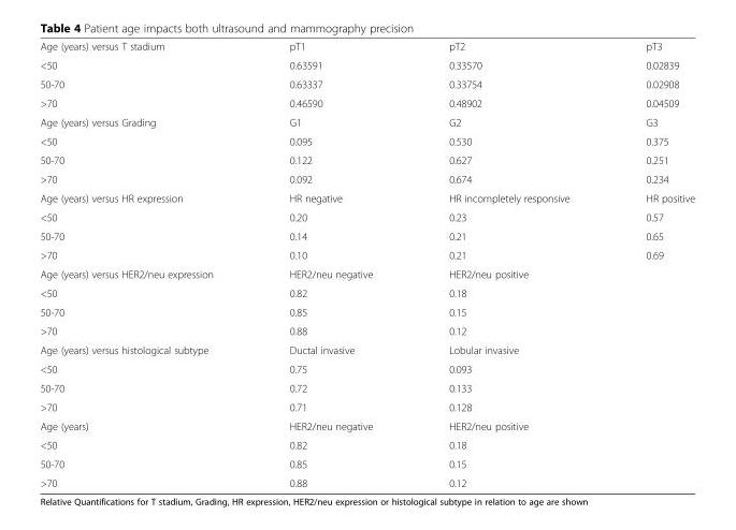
<table><tbody><tr><td>Age (years) versus T stadium</td><td>pT1</td><td>pT2</td><td>pT3</td></tr><tr><td>&lt;50</td><td>0.63591</td><td>0.33570</td><td>0.02839</td></tr><tr><td>50-70</td><td>0.63337</td><td>0.33754</td><td>0.02908</td></tr><tr><td>&gt;70</td><td>0.46590</td><td>0.48902</td><td>0.04509</td></tr><tr><td>Age (years) versus Grading</td><td>G1</td><td>G2</td><td>G3</td></tr><tr><td>&lt;50</td><td>0.095</td><td>0.530</td><td>0.375</td></tr><tr><td>50-70</td><td>0.122</td><td>0.627</td><td>0.251</td></tr><tr><td>&gt;70</td><td>0.092</td><td>0.674</td><td>0.234</td></tr><tr><td>Age (years) versus HR expression</td><td>HR negative</td><td>HR incompletely responsive</td><td>HR positive</td></tr><tr><td>&lt;50</td><td>0.20</td><td>0.23</td><td>0.57</td></tr><tr><td>50-70</td><td>0.14</td><td>0.21</td><td>0.65</td></tr><tr><td>&gt;70</td><td>0.10</td><td>0.21</td><td>0.69</td></tr><tr><td>Age (years) versus HER2/neu expression</td><td>HER2/neu negative</td><td colspan="2">HER2/neu positive</td></tr><tr><td>&lt;50</td><td>0.82</td><td colspan="2">0.18</td></tr><tr><td>50-70</td><td>0.85</td><td colspan="2">0.15</td></tr><tr><td>&gt;70</td><td>0.88</td><td colspan="2">0.12</td></tr><tr><td>Age (years) versus histological subtype</td><td>Ductal invasive</td><td colspan="2">Lobular invasive</td></tr><tr><td>&lt;50</td><td>0.75</td><td colspan="2">0.093</td></tr><tr><td>50-70</td><td>0.72</td><td colspan="2">0.133</td></tr><tr><td>&gt;70</td><td>0.71</td><td colspan="2">0.128</td></tr><tr><td>Age (years)</td><td>HER2/neu negative</td><td colspan="2">HER2/neu positive</td></tr><tr><td>&lt;50</td><td>0.82</td><td colspan="2">0.18</td></tr><tr><td>50-70</td><td>0.85</td><td colspan="2">0.15</td></tr><tr><td>&gt;70</td><td>0.88</td><td colspan="2">0.12</td></tr></tbody></table>